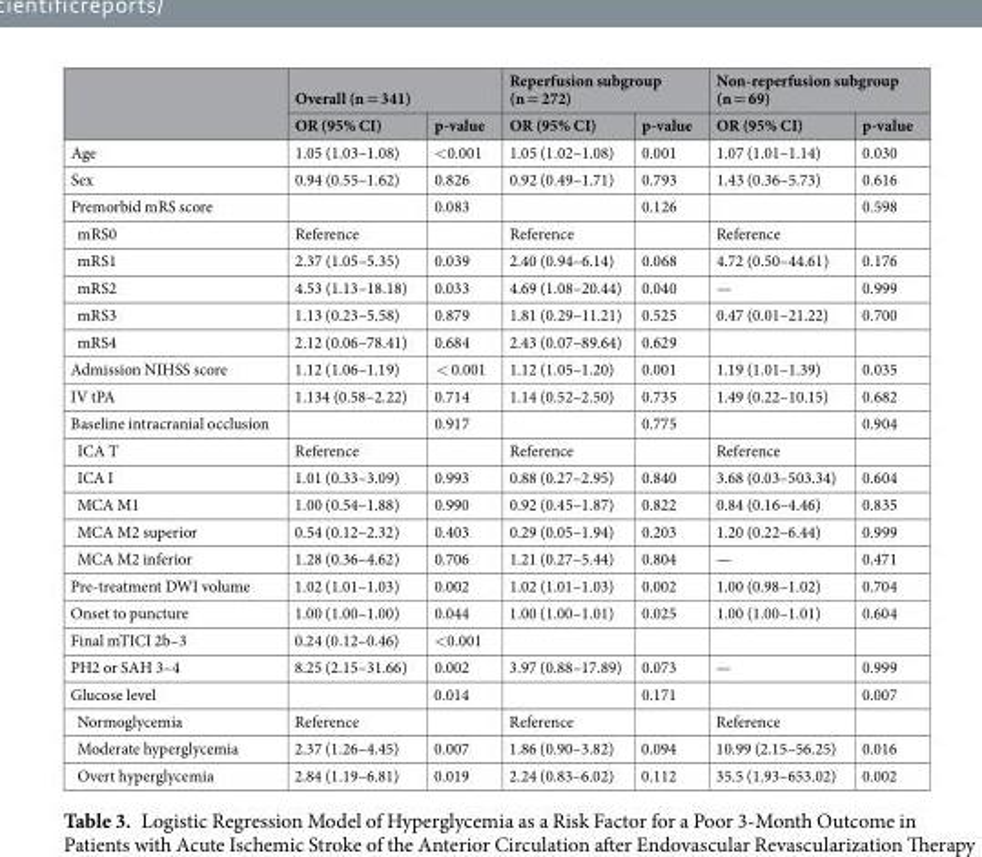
<table><thead><tr><td rowspan="2"></td><td colspan="2">Overall (n = 341)</td><td colspan="2">Reperfusion subgroup (n = 272)</td><td colspan="2">Non-reperfusion subgroup (n = 69)</td></tr><tr><td>OR (95% CI)</td><td>p-value</td><td>OR (95% CI)</td><td>p-value</td><td>OR (95% CI)</td><td>p-value</td></tr></thead><tbody><tr><td>Age</td><td>1.05 (1.03–1.08)</td><td>&lt;0.001</td><td>1.05 (1.02–1.08)</td><td>0.001</td><td>1.07 (1.01–1.14)</td><td>0.030</td></tr><tr><td>Sex</td><td>0.94 (0.55–1.62)</td><td>0.826</td><td>0.92 (0.49–1.71)</td><td>0.793</td><td>1.43 (0.36–5.73)</td><td>0.616</td></tr><tr><td>Premorbid mRS score</td><td></td><td>0.083</td><td></td><td>0.126</td><td></td><td>0.598</td></tr><tr><td>mRS0</td><td>Reference</td><td></td><td>Reference</td><td></td><td>Reference</td><td></td></tr><tr><td>mRS1</td><td>2.37 (1.05–5.35)</td><td>0.039</td><td>2.40 (0.94–6.14)</td><td>0.068</td><td>4.72 (0.50–44.61)</td><td>0.176</td></tr><tr><td>mRS2</td><td>4.53 (1.13–18.18)</td><td>0.033</td><td>4.69 (1.08–20.44)</td><td>0.040</td><td>—</td><td>0.999</td></tr><tr><td>mRS3</td><td>1.13 (0.23–5.58)</td><td>0.879</td><td>1.81 (0.29–11.21)</td><td>0.525</td><td>0.47 (0.01–21.22)</td><td>0.700</td></tr><tr><td>mRS4</td><td>2.12 (0.06–78.41)</td><td>0.684</td><td>2.43 (0.07–89.64)</td><td>0.629</td><td></td><td></td></tr><tr><td>Admission NIHSS score</td><td>1.12 (1.06–1.19)</td><td>&lt; 0.001</td><td>1.12 (1.05–1.20)</td><td>0.001</td><td>1.19 (1.01–1.39)</td><td>0.035</td></tr><tr><td>IV tPA</td><td>1.134 (0.58–2.22)</td><td>0.714</td><td>1.14 (0.52–2.50)</td><td>0.735</td><td>1.49 (0.22–10.15)</td><td>0.682</td></tr><tr><td>Baseline intracranial occlusion</td><td></td><td>0.917</td><td></td><td>0.775</td><td></td><td>0.904</td></tr><tr><td>ICA T</td><td>Reference</td><td></td><td>Reference</td><td></td><td>Reference</td><td></td></tr><tr><td>ICA I</td><td>1.01 (0.33–3.09)</td><td>0.993</td><td>0.88 (0.27–2.95)</td><td>0.840</td><td>3.68 (0.03–503.34)</td><td>0.604</td></tr><tr><td>MCA M1</td><td>1.00 (0.54–1.88)</td><td>0.990</td><td>0.92 (0.45–1.87)</td><td>0.822</td><td>0.84 (0.16–4.46)</td><td>0.835</td></tr><tr><td>MCA M2 superior</td><td>0.54 (0.12–2.32)</td><td>0.403</td><td>0.29 (0.05–1.94)</td><td>0.203</td><td>1.20 (0.22–6.44)</td><td>0.999</td></tr><tr><td>MCA M2 inferior</td><td>1.28 (0.36–4.62)</td><td>0.706</td><td>1.21 (0.27–5.44)</td><td>0.804</td><td>—</td><td>0.471</td></tr><tr><td>Pre-treatment DWI volume</td><td>1.02 (1.01–1.03)</td><td>0.002</td><td>1.02 (1.01–1.03)</td><td>0.002</td><td>1.00 (0.98–1.02)</td><td>0.704</td></tr><tr><td>Onset to puncture</td><td>1.00 (1.00–1.00)</td><td>0.044</td><td>1.00 (1.00–1.01)</td><td>0.025</td><td>1.00 (1.00–1.01)</td><td>0.604</td></tr><tr><td>Final mTICI 2b–3</td><td>0.24 (0.12–0.46)</td><td>&lt;0.001</td><td></td><td></td><td></td><td></td></tr><tr><td>PH2 or SAH 3–4</td><td>8.25 (2.15–31.66)</td><td>0.002</td><td>3.97 (0.88–17.89)</td><td>0.073</td><td>—</td><td>0.999</td></tr><tr><td>Glucose level</td><td></td><td>0.014</td><td></td><td>0.171</td><td></td><td>0.007</td></tr><tr><td>Normoglycemia</td><td>Reference</td><td></td><td>Reference</td><td></td><td>Reference</td><td></td></tr><tr><td>Moderate hyperglycemia</td><td>2.37 (1.26–4.45)</td><td>0.007</td><td>1.86 (0.90–3.82)</td><td>0.094</td><td>10.99 (2.15–56.25)</td><td>0.016</td></tr><tr><td>Overt hyperglycemia</td><td>2.84 (1.19–6.81)</td><td>0.019</td><td>2.24 (0.83–6.02)</td><td>0.112</td><td>35.5 (1.93–653.02)</td><td>0.002</td></tr></tbody></table>